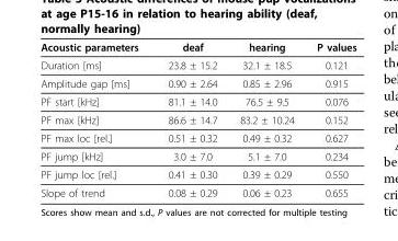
<table><thead><tr><td>Acoustic parameters</td><td>deaf</td><td>hearing</td><td>P values</td></tr></thead><tbody><tr><td>Duration [ms]</td><td>23.8 ± 15.2</td><td>32.1 ± 18.5</td><td>0.121</td></tr><tr><td>Amplitude gap [ms]</td><td>0.90 ± 2.64</td><td>0.85 ± 2.96</td><td>0.915</td></tr><tr><td>PF start [kHz]</td><td>81.1 ± 14.0</td><td>76.5 ± 9.5</td><td>0.076</td></tr><tr><td>PF max [kHz]</td><td>86.6 ± 14.7</td><td>83.2 ± 10.24</td><td>0.152</td></tr><tr><td>PF max loc [rel.]</td><td>0.51 ± 0.32</td><td>0.49 ± 0.32</td><td>0.627</td></tr><tr><td>PF jump [kHz]</td><td>3.0 ± 7.0</td><td>5.1 ± 7.0</td><td>0.234</td></tr><tr><td>PF jump loc [rel.]</td><td>0.41 ± 0.30</td><td>0.39 ± 0.29</td><td>0.550</td></tr><tr><td>Slope of trend</td><td>0.08 ± 0.29</td><td>0.06 ± 0.23</td><td>0.655</td></tr></tbody></table>